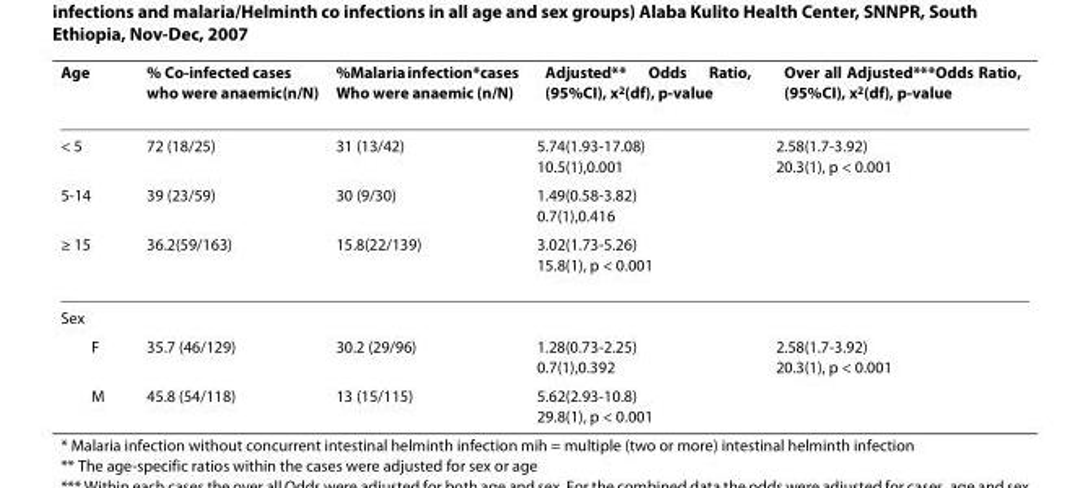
<table><thead><tr><td>Age</td><td>% Co-infected cases who were anaemic(n/N)</td><td>%Malaria infection*cases Who were anaemic (n/N)</td><td>Adjusted** Odds Ratio, (95%CI), x<sup>2</sup>(df), p-value</td><td>Over all Adjusted***Odds Ratio, (95%CI), x<sup>2</sup>(df), p-value</td></tr></thead><tbody><tr><td>&lt; 5</td><td>72 (18/25)</td><td>31 (13/42)</td><td>5.74(1.93-17.08) 10.5(1),0.001</td><td>2.58(1.7-3.92) 20.3(1), p &lt; 0.001</td></tr><tr><td>5-14</td><td>39 (23/59)</td><td>30 (9/30)</td><td>1.49(0.58-3.82) 0.7(1),0.416</td><td></td></tr><tr><td>≥ 15</td><td>36.2(59/163)</td><td>15.8(22/139)</td><td>3.02(1.73-5.26) 15.8(1), p &lt; 0.001</td><td></td></tr><tr><td colspan="5">Sex</td></tr><tr><td>F</td><td>35.7 (46/129)</td><td>30.2 (29/96)</td><td>1.28(0.73-2.25) 0.7(1),0.392</td><td>2.58(1.7-3.92) 20.3(1), p &lt; 0.001</td></tr><tr><td>M</td><td>45.8 (54/118)</td><td>13 (15/115)</td><td>5.62(2.93-10.8) 29.8(1), p &lt; 0.001</td><td></td></tr></tbody></table>